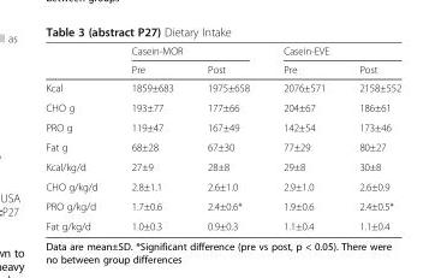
<table><thead><tr><td rowspan="2"></td><td colspan="2">Casein-MOR</td><td colspan="2">Casein-EVE</td></tr><tr><td>Pre</td><td>Post</td><td>Pre</td><td>Post</td></tr></thead><tbody><tr><td>Kcal</td><td>1859±683</td><td>1975±658</td><td>2076±571</td><td>2158±552</td></tr><tr><td>CHO g</td><td>193±77</td><td>177±66</td><td>204±67</td><td>186±61</td></tr><tr><td>PRO g</td><td>119±47</td><td>167±49</td><td>142±54</td><td>173±46</td></tr><tr><td>Fat g</td><td>68±28</td><td>67±30</td><td>77±29</td><td>80±27</td></tr><tr><td>Kcal/kg/d</td><td>27±9</td><td>28±8</td><td>29±8</td><td>30±8</td></tr><tr><td>CHO g/kg/d</td><td>2.8±1.1</td><td>2.6±1.0</td><td>2.9±1.0</td><td>2.6±0.9</td></tr><tr><td>PRO g/kg/d</td><td>1.7±0.6</td><td>2.4±0.6*</td><td>1.9±0.6</td><td>2.4±0.5*</td></tr><tr><td>Fat g/kg/d</td><td>1.0±0.3</td><td>0.9±0.3</td><td>1.1±0.4</td><td>1.1±0.4</td></tr></tbody></table>